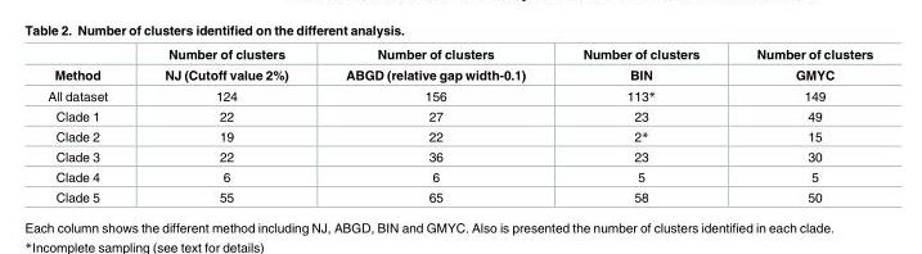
<table><thead><tr><td rowspan="2">Method</td><td rowspan="2">Number of clusters NJ (Cutoff value 2%)</td><td rowspan="2">Number of clusters ABGD (relative gap width-0.1)</td><td rowspan="2">Number of clusters BIN</td><td rowspan="2">Number of clusters GMYC</td></tr><tr></tr></thead><tbody><tr><td>All dataset</td><td>124</td><td>156</td><td>113*</td><td>149</td></tr><tr><td>Clade 1</td><td>22</td><td>27</td><td>23</td><td>49</td></tr><tr><td>Clade 2</td><td>19</td><td>22</td><td>2*</td><td>15</td></tr><tr><td>Clade 3</td><td>22</td><td>36</td><td>23</td><td>30</td></tr><tr><td>Clade 4</td><td>6</td><td>6</td><td>5</td><td>5</td></tr><tr><td>Clade 5</td><td>55</td><td>65</td><td>58</td><td>50</td></tr></tbody></table>